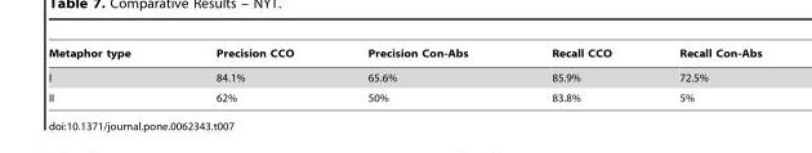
<table><thead><tr><td>Metaphor type</td><td>Precision CCO</td><td>Precision Con-Abs</td><td>Recall CCO</td><td>Recall Con-Abs</td></tr></thead><tbody><tr><td>I</td><td>84.1%</td><td>65.6%</td><td>85.9%</td><td>72.5%</td></tr><tr><td>II</td><td>62%</td><td>50%</td><td>83.8%</td><td>5%</td></tr></tbody></table>